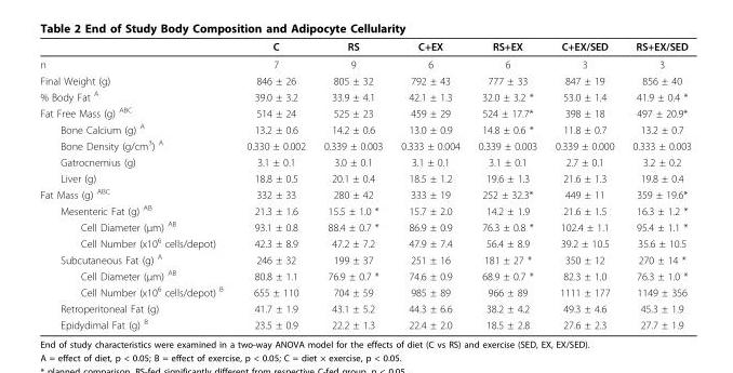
<table><thead><tr><td></td><td>C</td><td>RS</td><td>C+EX</td><td>RS+EX</td><td>C+EX/SED</td><td>RS+EX/SED</td></tr></thead><tbody><tr><td>n</td><td>7</td><td>9</td><td>6</td><td>6</td><td>3</td><td>3</td></tr><tr><td>Final Weight (g)</td><td>846 ± 26</td><td>805 ± 32</td><td>792 ± 43</td><td>777 ± 33</td><td>847 ± 19</td><td>856 ± 40</td></tr><tr><td>% Body Fat <sup>A</sup></td><td>39.0 ± 3.2</td><td>33.9 ± 4.1</td><td>42.1 ± 1.3</td><td>32.0 ± 3.2 *</td><td>53.0 ± 1.4</td><td>41.9 ± 0.4 *</td></tr><tr><td>Fat Free Mass (g) <sup>ABC</sup></td><td>514 ± 24</td><td>525 ± 23</td><td>459 ± 29</td><td>524 ± 17.7*</td><td>398 ± 18</td><td>497 ± 20.9*</td></tr><tr><td>Bone Calcium (g) <sup>A</sup></td><td>13.2 ± 0.6</td><td>14.2 ± 0.6</td><td>13.0 ± 0.9</td><td>14.8 ± 0.6 *</td><td>11.8 ± 0.7</td><td>13.2 ± 0.7</td></tr><tr><td>Bone Density (g/cm<sup>3</sup>) <sup>A</sup></td><td>0.330 ± 0.002</td><td>0.339 ± 0.003</td><td>0.333 ± 0.004</td><td>0.339 ± 0.003</td><td>0.339 ± 0.000</td><td>0.333 ± 0.003</td></tr><tr><td>Gatrocnemius (g)</td><td>3.1 ± 0.1</td><td>3.0 ± 0.1</td><td>3.1 ± 0.1</td><td>3.1 ± 0.1</td><td>2.7 ± 0.1</td><td>3.2 ± 0.2</td></tr><tr><td>Liver (g)</td><td>18.8 ± 0.5</td><td>20.1 ± 0.4</td><td>18.5 ± 1.2</td><td>19.6 ± 1.3</td><td>21.6 ± 1.3</td><td>19.8 ± 0.4</td></tr><tr><td>Fat Mass (g) <sup>ABC</sup></td><td>332 ± 33</td><td>280 ± 42</td><td>333 ± 19</td><td>252 ± 32.3*</td><td>449 ± 11</td><td>359 ± 19.6*</td></tr><tr><td>Mesenteric Fat (g) <sup>AB</sup></td><td>21.3 ± 1.6</td><td>15.5 ± 1.0 *</td><td>15.7 ± 2.0</td><td>14.2 ± 1.9</td><td>21.6 ± 1.5</td><td>16.3 ± 1.2 *</td></tr><tr><td>Cell Diameter (μm) <sup>AB</sup></td><td>93.1 ± 0.8</td><td>88.4 ± 0.7 *</td><td>86.9 ± 0.9</td><td>76.3 ± 0.8 *</td><td>102.4 ± 1.1</td><td>95.4 ± 1.1 *</td></tr><tr><td>Cell Number (x10<sup>6</sup> cells/depot)</td><td>42.3 ± 8.9</td><td>47.2 ± 7.2</td><td>47.9 ± 7.4</td><td>56.4 ± 8.9</td><td>39.2 ± 10.5</td><td>35.6 ± 10.5</td></tr><tr><td>Subcutaneous Fat (g) <sup>A</sup></td><td>246 ± 32</td><td>199 ± 37</td><td>251 ± 16</td><td>181 ± 27 *</td><td>350 ± 12</td><td>270 ± 14 *</td></tr><tr><td>Cell Diameter (μm) <sup>AB</sup></td><td>80.8 ± 1.1</td><td>76.9 ± 0.7 *</td><td>74.6 ± 0.9</td><td>68.9 ± 0.7 *</td><td>82.3 ± 1.0</td><td>76.3 ± 1.0 *</td></tr><tr><td>Cell Number (x10<sup>6</sup> cells/depot) <sup>B</sup></td><td>655 ± 110</td><td>704 ± 59</td><td>985 ± 89</td><td>966 ± 89</td><td>1111 ± 177</td><td>1149 ± 356</td></tr><tr><td>Retroperitoneal Fat (g)</td><td>41.7 ± 1.9</td><td>43.1 ± 5.2</td><td>44.3 ± 6.6</td><td>38.2 ± 4.2</td><td>49.3 ± 4.6</td><td>45.3 ± 1.9</td></tr><tr><td>Epidydimal Fat (g) <sup>B</sup></td><td>23.5 ± 0.9</td><td>22.2 ± 1.3</td><td>22.4 ± 2.0</td><td>18.5 ± 2.8</td><td>27.6 ± 2.3</td><td>27.7 ± 1.9</td></tr></tbody></table>